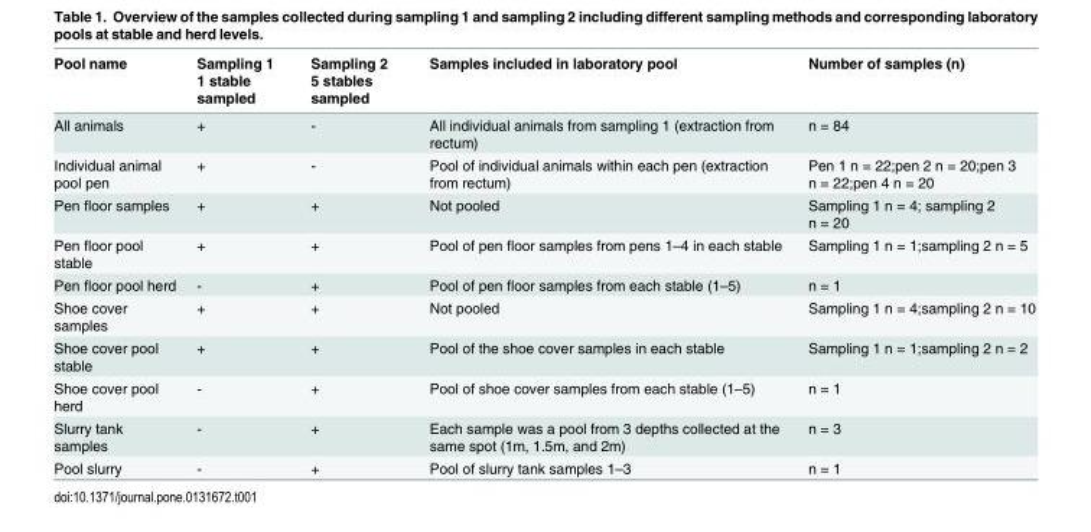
<table><thead><tr><td rowspan="2">Pool name</td><td rowspan="2">Sampling 1 1 stable sampled</td><td rowspan="2">Sampling 2 5 stables sampled</td><td rowspan="2">Samples included in laboratory pool</td><td rowspan="2">Number of samples (n)</td></tr><tr></tr></thead><tbody><tr><td>All animals</td><td>+</td><td>-</td><td>All individual animals from sampling 1 (extraction from rectum)</td><td>n = 84</td></tr><tr><td>Individual animal pool pen</td><td>+</td><td>-</td><td>Pool of individual animals within each pen (extraction from rectum)</td><td>Pen 1 n = 22;pen 2 n = 20;pen 3 n = 22;pen 4 n = 20</td></tr><tr><td>Pen floor samples</td><td>+</td><td>+</td><td>Not pooled</td><td>Sampling 1 n = 4; sampling 2 n = 20</td></tr><tr><td>Pen floor pool stable</td><td>+</td><td>+</td><td>Pool of pen floor samples from pens 1–4 in each stable</td><td>Sampling 1 n = 1;sampling 2 n = 5</td></tr><tr><td>Pen floor pool herd</td><td>-</td><td>+</td><td>Pool of pen floor samples from each stable (1–5)</td><td>n = 1</td></tr><tr><td>Shoe cover samples</td><td>+</td><td>+</td><td>Not pooled</td><td>Sampling 1 n = 4;sampling 2 n = 10</td></tr><tr><td>Shoe cover pool stable</td><td>+</td><td>+</td><td>Pool of the shoe cover samples in each stable</td><td>Sampling 1 n = 1;sampling 2 n = 2</td></tr><tr><td>Shoe cover pool herd</td><td>-</td><td>+</td><td>Pool of shoe cover samples from each stable (1–5)</td><td>n = 1</td></tr><tr><td>Slurry tank samples</td><td>-</td><td>+</td><td>Each sample was a pool from 3 depths collected at the same spot (1m, 1.5m, and 2m)</td><td>n = 3</td></tr><tr><td>Pool slurry</td><td>-</td><td>+</td><td>Pool of slurry tank samples 1–3</td><td>n = 1</td></tr></tbody></table>